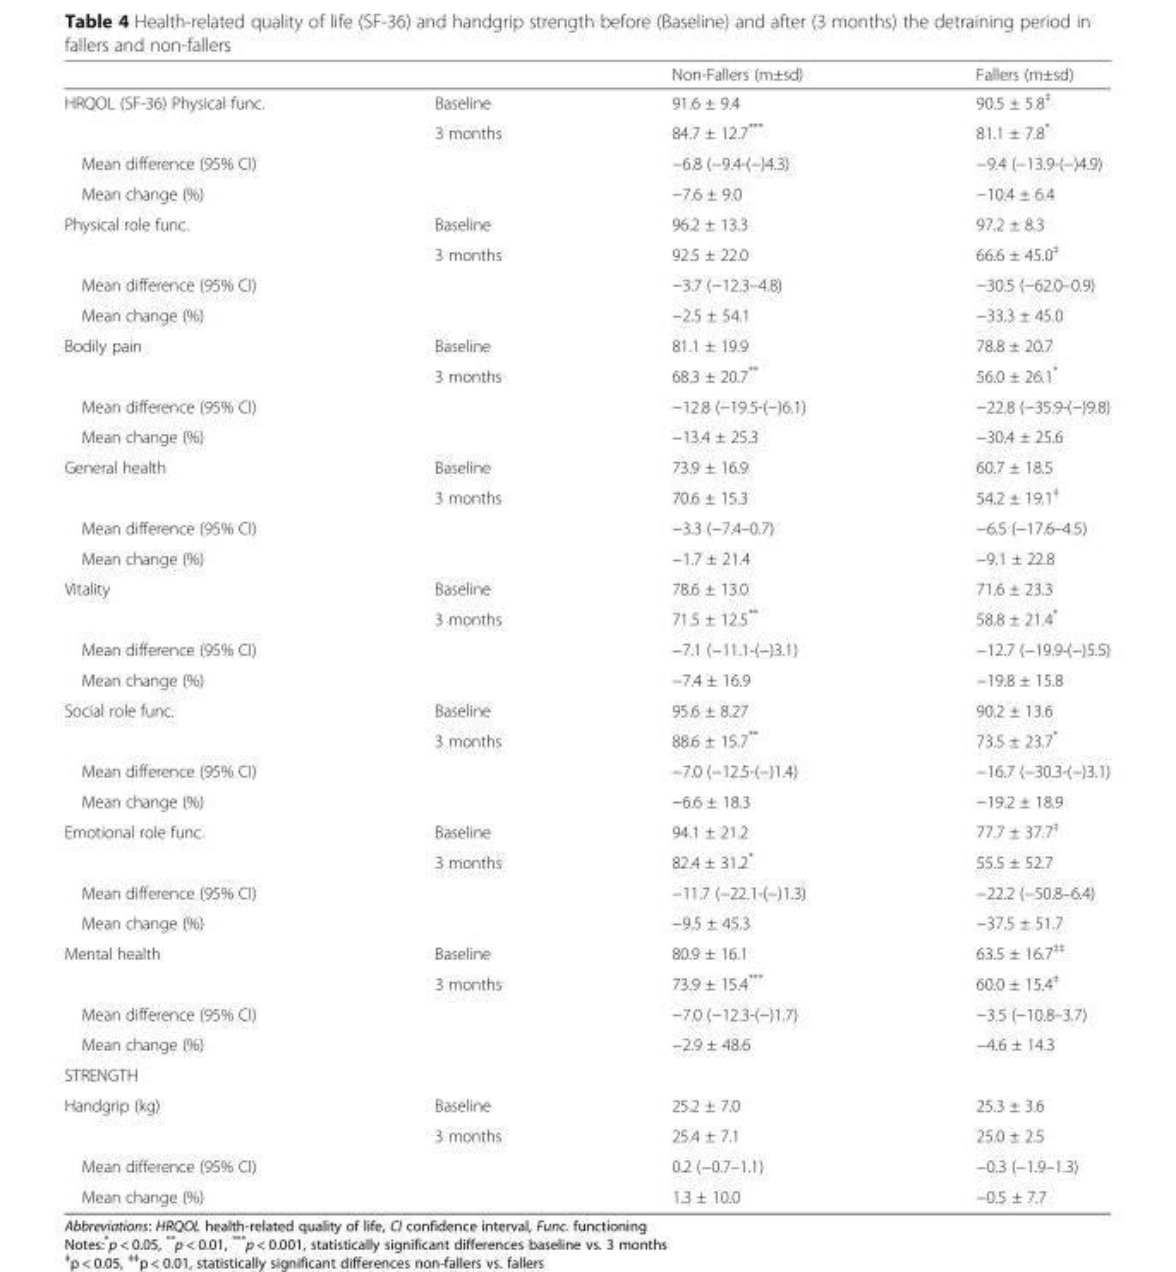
<table><thead><tr><td></td><td></td><td>Non-Fallers (m±sd)</td><td>Fallers (m±sd)</td></tr></thead><tbody><tr><td rowspan="2">HRQOL (SF-36) Physical func.</td><td>Baseline</td><td>91.6 ± 9.4</td><td>90.5 ± 5.8<sup>‡</sup></td></tr><tr><td>3 months</td><td>84.7 ± 12.7***</td><td>81.1 ± 7.8*</td></tr><tr><td colspan="2">Mean difference (95% CI)</td><td>−6.8 (−9.4-(−)4.3)</td><td>−9.4 (−13.9-(−)4.9)</td></tr><tr><td colspan="2">Mean change (%)</td><td>−7.6 ± 9.0</td><td>−10.4 ± 6.4</td></tr><tr><td rowspan="2">Physical role func.</td><td>Baseline</td><td>96.2 ± 13.3</td><td>97.2 ± 8.3</td></tr><tr><td>3 months</td><td>92.5 ± 22.0</td><td>66.6 ± 45.0<sup>‡</sup></td></tr><tr><td colspan="2">Mean difference (95% CI)</td><td>−3.7 (−12.3–4.8)</td><td>−30.5 (−62.0–0.9)</td></tr><tr><td colspan="2">Mean change (%)</td><td>−2.5 ± 54.1</td><td>−33.3 ± 45.0</td></tr><tr><td rowspan="2">Bodily pain</td><td>Baseline</td><td>81.1 ± 19.9</td><td>78.8 ± 20.7</td></tr><tr><td>3 months</td><td>68.3 ± 20.7**</td><td>56.0 ± 26.1*</td></tr><tr><td colspan="2">Mean difference (95% CI)</td><td>−12.8 (−19.5-(−)6.1)</td><td>−22.8 (−35.9-(−)9.8)</td></tr><tr><td colspan="2">Mean change (%)</td><td>−13.4 ± 25.3</td><td>−30.4 ± 25.6</td></tr><tr><td rowspan="2">General health</td><td>Baseline</td><td>73.9 ± 16.9</td><td>60.7 ± 18.5</td></tr><tr><td>3 months</td><td>70.6 ± 15.3</td><td>54.2 ± 19.1<sup>‡</sup></td></tr><tr><td colspan="2">Mean difference (95% CI)</td><td>−3.3 (−7.4–0.7)</td><td>−6.5 (−17.6–4.5)</td></tr><tr><td colspan="2">Mean change (%)</td><td>−1.7 ± 21.4</td><td>−9.1 ± 22.8</td></tr><tr><td rowspan="2">Vitality</td><td>Baseline</td><td>78.6 ± 13.0</td><td>71.6 ± 23.3</td></tr><tr><td>3 months</td><td>71.5 ± 12.5**</td><td>58.8 ± 21.4*</td></tr><tr><td colspan="2">Mean difference (95% CI)</td><td>−7.1 (−11.1-(−)3.1)</td><td>−12.7 (−19.9-(−)5.5)</td></tr><tr><td colspan="2">Mean change (%)</td><td>−7.4 ± 16.9</td><td>−19.8 ± 15.8</td></tr><tr><td rowspan="2">Social role func.</td><td>Baseline</td><td>95.6 ± 8.27</td><td>90.2 ± 13.6</td></tr><tr><td>3 months</td><td>88.6 ± 15.7**</td><td>73.5 ± 23.7*</td></tr><tr><td colspan="2">Mean difference (95% CI)</td><td>−7.0 (−12.5-(−)1.4)</td><td>−16.7 (−30.3-(−)3.1)</td></tr><tr><td colspan="2">Mean change (%)</td><td>−6.6 ± 18.3</td><td>−19.2 ± 18.9</td></tr><tr><td rowspan="2">Emotional role func.</td><td>Baseline</td><td>94.1 ± 21.2</td><td>77.7 ± 37.7<sup>‡</sup></td></tr><tr><td>3 months</td><td>82.4 ± 31.2*</td><td>55.5 ± 52.7</td></tr><tr><td colspan="2">Mean difference (95% CI)</td><td>−11.7 (−22.1-(−)1.3)</td><td>−22.2 (−50.8–6.4)</td></tr><tr><td colspan="2">Mean change (%)</td><td>−9.5 ± 45.3</td><td>−37.5 ± 51.7</td></tr><tr><td rowspan="2">Mental health</td><td>Baseline</td><td>80.9 ± 16.1</td><td>63.5 ± 16.7<sup>‡‡</sup></td></tr><tr><td>3 months</td><td>73.9 ± 15.4***</td><td>60.0 ± 15.4<sup>‡</sup></td></tr><tr><td colspan="2">Mean difference (95% CI)</td><td>−7.0 (−12.3-(−)1.7)</td><td>−3.5 (−10.8–3.7)</td></tr><tr><td colspan="2">Mean change (%)</td><td>−2.9 ± 48.6</td><td>−4.6 ± 14.3</td></tr><tr><td colspan="4">STRENGTH</td></tr><tr><td rowspan="2">Handgrip (kg)</td><td>Baseline</td><td>25.2 ± 7.0</td><td>25.3 ± 3.6</td></tr><tr><td>3 months</td><td>25.4 ± 7.1</td><td>25.0 ± 2.5</td></tr><tr><td colspan="2">Mean difference (95% CI)</td><td>0.2 (−0.7–1.1)</td><td>−0.3 (−1.9–1.3)</td></tr><tr><td colspan="2">Mean change (%)</td><td>1.3 ± 10.0</td><td>−0.5 ± 7.7</td></tr></tbody></table>